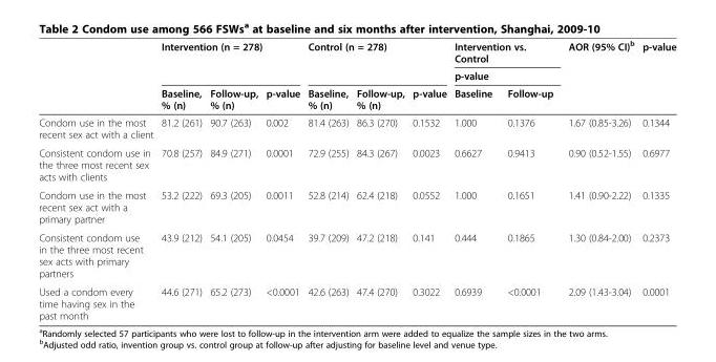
<table><thead><tr><td rowspan="3"></td><td rowspan="2" colspan="3">Intervention (n = 278)</td><td rowspan="2" colspan="3">Control (n = 278)</td><td rowspan="2" colspan="2">Intervention vs. Control p-value</td><td rowspan="3">AOR (95% CI)<sup>b</sup></td><td rowspan="3">p-value</td></tr><tr></tr><tr><td>Baseline, % (n)</td><td>Follow-up, % (n)</td><td>p-value</td><td>Baseline, % (n)</td><td>Follow-up, % (n)</td><td>p-value</td><td>Baseline</td><td>Follow-up</td></tr></thead><tbody><tr><td>Condom use in the most recent sex act with a client</td><td>81.2 (261)</td><td>90.7 (263)</td><td>0.002</td><td>81.4 (263)</td><td>86.3 (270)</td><td>0.1532</td><td>1.000</td><td>0.1376</td><td>1.67 (0.85-3.26)</td><td>0.1344</td></tr><tr><td>Consistent condom use in the three most recent sex acts with clients</td><td>70.8 (257)</td><td>84.9 (271)</td><td>0.0001</td><td>72.9 (255)</td><td>84.3 (267)</td><td>0.0023</td><td>0.6627</td><td>0.9413</td><td>0.90 (0.52-1.55)</td><td>0.6977</td></tr><tr><td>Condom use in the most recent sex act with a primary partner</td><td>53.2 (222)</td><td>69.3 (205)</td><td>0.0011</td><td>52.8 (214)</td><td>62.4 (218)</td><td>0.0552</td><td>1.000</td><td>0.1651</td><td>1.41 (0.90-2.22)</td><td>0.1335</td></tr><tr><td>Consistent condom use in the three most recent sex acts with primary partners</td><td>43.9 (212)</td><td>54.1 (205)</td><td>0.0454</td><td>39.7 (209)</td><td>47.2 (218)</td><td>0.141</td><td>0.444</td><td>0.1865</td><td>1.30 (0.84-2.00)</td><td>0.2373</td></tr><tr><td>Used a condom every time having sex in the past month</td><td>44.6 (271)</td><td>65.2 (273)</td><td>&lt;0.0001</td><td>42.6 (263)</td><td>47.4 (270)</td><td>0.3022</td><td>0.6939</td><td>&lt;0.0001</td><td>2.09 (1.43-3.04)</td><td>0.0001</td></tr></tbody></table>